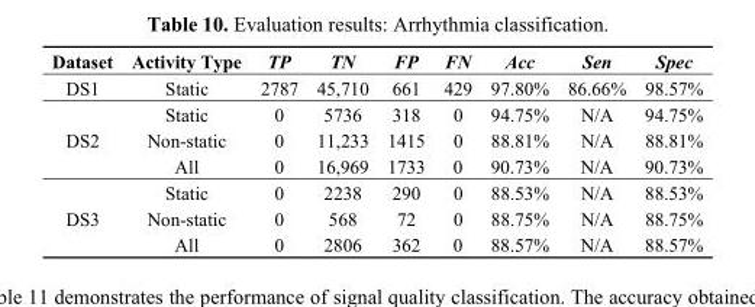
<table><thead><tr><td>Dataset</td><td>Activity Type</td><td>TP</td><td>TN</td><td>FP</td><td>FN</td><td>Acc</td><td>Sen</td><td>Spec</td></tr></thead><tbody><tr><td>DS1</td><td>Static</td><td>2787</td><td>45,710</td><td>661</td><td>429</td><td>97.80%</td><td>86.66%</td><td>98.57%</td></tr><tr><td rowspan="3">DS2</td><td>Static</td><td>0</td><td>5736</td><td>318</td><td>0</td><td>94.75%</td><td>N/A</td><td>94.75%</td></tr><tr><td>Non-static</td><td>0</td><td>11,233</td><td>1415</td><td>0</td><td>88.81%</td><td>N/A</td><td>88.81%</td></tr><tr><td>All</td><td>0</td><td>16,969</td><td>1733</td><td>0</td><td>90.73%</td><td>N/A</td><td>90.73%</td></tr><tr><td rowspan="3">DS3</td><td>Static</td><td>0</td><td>2238</td><td>290</td><td>0</td><td>88.53%</td><td>N/A</td><td>88.53%</td></tr><tr><td>Non-static</td><td>0</td><td>568</td><td>72</td><td>0</td><td>88.75%</td><td>N/A</td><td>88.75%</td></tr><tr><td>All</td><td>0</td><td>2806</td><td>362</td><td>0</td><td>88.57%</td><td>N/A</td><td>88.57%</td></tr></tbody></table>